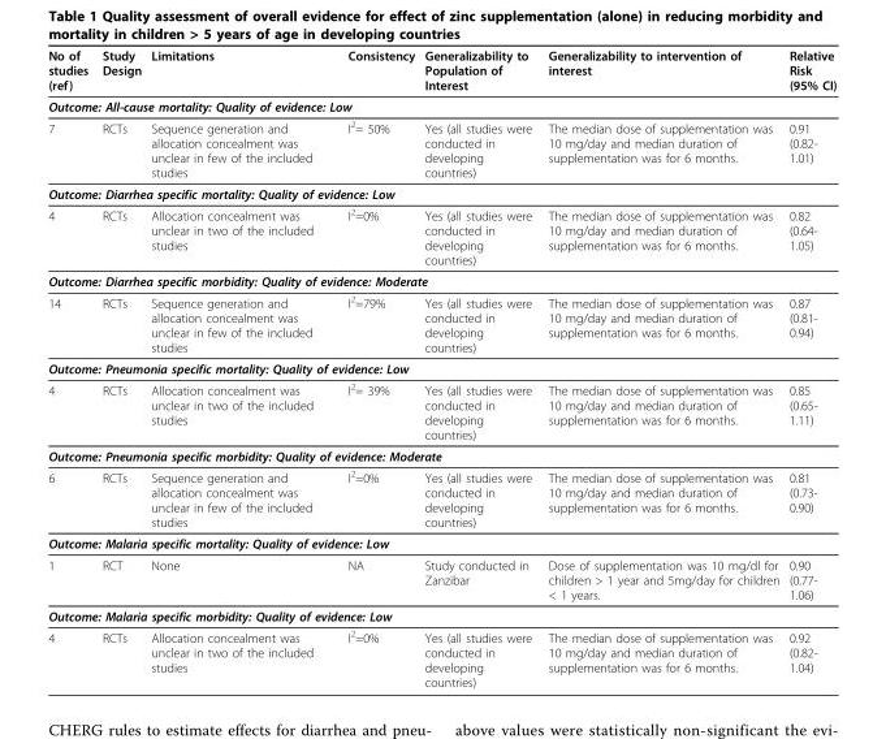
<table><thead><tr><td>No of studies (ref)</td><td>Study Design</td><td>Limitations</td><td>Consistency</td><td>Generalizability to Population of Interest</td><td>Generalizability to intervention of interest</td><td>Relative Risk (95% CI)</td></tr></thead><tbody><tr><td colspan="7">Outcome: All-cause mortality: Quality of evidence: Low</td></tr><tr><td>7</td><td>RCTs</td><td>Sequence generation and allocation concealment was unclear in few of the included studies</td><td>I<sup>2</sup>= 50%</td><td>Yes (all studies were conducted in developing countries)</td><td>The median dose of supplementation was 10 mg/day and median duration of supplementation was for 6 months.</td><td>0.91 (0.82- 1.01)</td></tr><tr><td colspan="7">Outcome: Diarrhea specific mortality: Quality of evidence: Low</td></tr><tr><td>4</td><td>RCTs</td><td>Allocation concealment was unclear in two of the included studies</td><td>I<sup>2</sup>=0%</td><td>Yes (all studies were conducted in developing countries)</td><td>The median dose of supplementation was 10 mg/day and median duration of supplementation was for 6 months.</td><td>0.82 (0.64- 1.05)</td></tr><tr><td colspan="7">Outcome: Diarrhea specific morbidity: Quality of evidence: Moderate</td></tr><tr><td>14</td><td>RCTs</td><td>Sequence generation and allocation concealment was unclear in few of the included studies</td><td>I<sup>2</sup>=79%</td><td>Yes (all studies were conducted in developing countries)</td><td>The median dose of supplementation was 10 mg/day and median duration of supplementation was for 6 months.</td><td>0.87 (0.81- 0.94)</td></tr><tr><td colspan="7">Outcome: Pneumonia specific mortality: Quality of evidence: Low</td></tr><tr><td>4</td><td>RCTs</td><td>Allocation concealment was unclear in two of the included studies</td><td>I<sup>2</sup>= 39%</td><td>Yes (all studies were conducted in developing countries)</td><td>The median dose of supplementation was 10 mg/day and median duration of supplementation was for 6 months.</td><td>0.85 (0.65- 1.11)</td></tr><tr><td colspan="7">Outcome: Pneumonia specific morbidity: Quality of evidence: Moderate</td></tr><tr><td>6</td><td>RCTs</td><td>Sequence generation and allocation concealment was unclear in few of the included studies</td><td>I<sup>2</sup>=0%</td><td>Yes (all studies were conducted in developing countries)</td><td>The median dose of supplementation was 10 mg/day and median duration of supplementation was for 6 months.</td><td>0.81 (0.73- 0.90)</td></tr><tr><td colspan="7">Outcome: Malaria specific mortality: Quality of evidence: Low</td></tr><tr><td>1</td><td>RCT</td><td>None</td><td>NA</td><td>Study conducted in Zanzibar</td><td>Dose of supplementation was 10 mg/dl for children &gt; 1 year and 5mg/day for children &lt; 1 years.</td><td>0.90 (0.77- 1.06)</td></tr><tr><td colspan="7">Outcome: Malaria specific morbidity: Quality of evidence: Low</td></tr><tr><td>4</td><td>RCTs</td><td>Allocation concealment was unclear in two of the included studies</td><td>I<sup>2</sup>=0%</td><td>Yes (all studies were conducted in developing countries)</td><td>The median dose of supplementation was 10 mg/day and median duration of supplementation was for 6 months.</td><td>0.92 (0.82- 1.04)</td></tr></tbody></table>